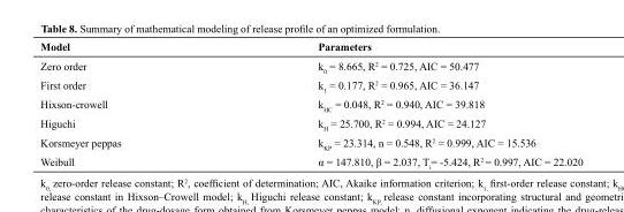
<table><thead><tr><td>Model</td><td>Parameters</td></tr></thead><tbody><tr><td>Zero order</td><td>k<sub>0</sub> = 8.665, R<sup>2</sup> = 0.725, AIC = 50.477</td></tr><tr><td>First order</td><td>k<sub>1</sub> = 0.177, R<sup>2</sup> = 0.965, AIC = 36.147</td></tr><tr><td>Hixson-crowell</td><td>k<sub>HC</sub> = 0.048, R<sup>2</sup> = 0.940, AIC = 39.818</td></tr><tr><td>Higuchi</td><td>k<sub>H</sub> = 25.700, R<sup>2</sup> = 0.994, AIC = 24.127</td></tr><tr><td>Korsmeyer peppas</td><td>k<sub>KP</sub> = 23.314, n = 0.548, R<sup>2</sup> = 0.999, AIC = 15.536</td></tr><tr><td>Weibull</td><td>α = 147.810, β = 2.037, T<sub>i</sub>= -5.424, R<sup>2</sup> = 0.997, AIC = 22.020</td></tr></tbody></table>